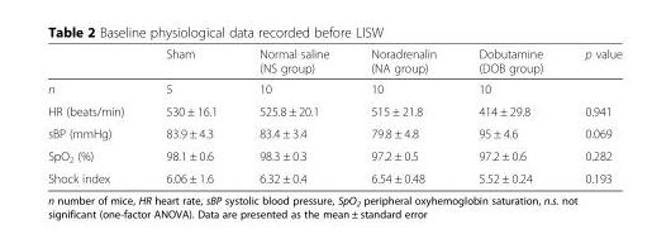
<table><thead><tr><td></td><td>Sham</td><td>Normal saline (NS group)</td><td>Noradrenalin (NA group)</td><td>Dobutamine (DOB group)</td><td>p value</td></tr></thead><tbody><tr><td>n</td><td>5</td><td>10</td><td>10</td><td>10</td><td></td></tr><tr><td>HR (beats/min)</td><td>530 ± 16.1</td><td>525.8 ± 20.1</td><td>515 ± 21.8</td><td>414 ± 29.8</td><td>0.941</td></tr><tr><td>sBP (mmHg)</td><td>83.9 ± 4.3</td><td>83.4 ± 3.4</td><td>79.8 ± 4.8</td><td>95 ± 4.6</td><td>0.069</td></tr><tr><td>SpO<sub>2</sub> (%)</td><td>98.1 ± 0.6</td><td>98.3 ± 0.3</td><td>97.2 ± 0.5</td><td>97.2 ± 0.6</td><td>0.282</td></tr><tr><td>Shock index</td><td>6.06 ± 1.6</td><td>6.32 ± 0.4</td><td>6.54 ± 0.48</td><td>5.52 ± 0.24</td><td>0.193</td></tr></tbody></table>